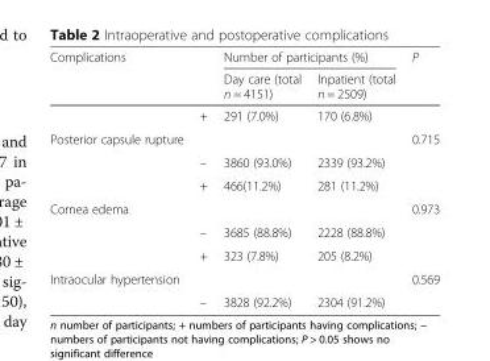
<table><thead><tr><td rowspan="2">Complications</td><td rowspan="2"></td><td colspan="2">Number of participants (%)</td><td rowspan="2">P</td></tr><tr><td>Day care (total n = 4151)</td><td>Inpatient (total n = 2509)</td></tr></thead><tbody><tr><td></td><td>+</td><td>291 (7.0%)</td><td>170 (6.8%)</td><td></td></tr><tr><td rowspan="3">Posterior capsule rupture</td><td colspan="3"></td><td>0.715</td></tr><tr><td>–</td><td>3860 (93.0%)</td><td>2339 (93.2%)</td><td></td></tr><tr><td>+</td><td>466(11.2%)</td><td>281 (11.2%)</td><td></td></tr><tr><td rowspan="3">Cornea edema</td><td colspan="3"></td><td>0.973</td></tr><tr><td>–</td><td>3685 (88.8%)</td><td>2228 (88.8%)</td><td></td></tr><tr><td>+</td><td>323 (7.8%)</td><td>205 (8.2%)</td><td></td></tr><tr><td rowspan="2">Intraocular hypertension</td><td colspan="3"></td><td>0.569</td></tr><tr><td>–</td><td>3828 (92.2%)</td><td>2304 (91.2%)</td><td></td></tr></tbody></table>